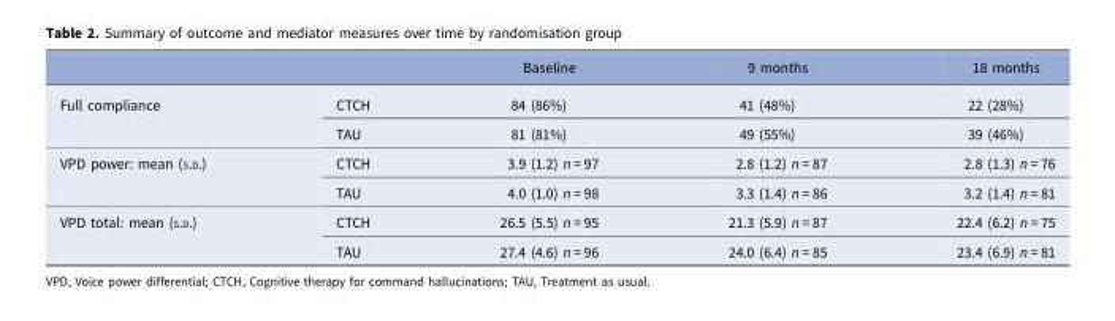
<table><thead><tr><td></td><td></td><td>Baseline</td><td>9 months</td><td>18 months</td></tr></thead><tbody><tr><td rowspan="2">Full compliance</td><td>CTCH</td><td>84 (86%)</td><td>41 (48%)</td><td>22 (28%)</td></tr><tr><td>TAU</td><td>81 (81%)</td><td>49 (55%)</td><td>39 (46%)</td></tr><tr><td rowspan="2">VPD power: mean (S.D.)</td><td>CTCH</td><td>3.9 (1.2) n = 97</td><td>2.8 (1.2) n = 87</td><td>2.8 (1.3) n = 76</td></tr><tr><td>TAU</td><td>4.0 (1.0) n = 98</td><td>3.3 (1.4) n = 86</td><td>3.2 (1.4) n = 81</td></tr><tr><td rowspan="2">VPD total: mean (S.D.)</td><td>CTCH</td><td>26.5 (5.5) n = 95</td><td>21.3 (5.9) n = 87</td><td>22.4 (6.2) n = 75</td></tr><tr><td>TAU</td><td>27.4 (4.6) n = 96</td><td>24.0 (6.4) n = 85</td><td>23.4 (6.9) n = 81</td></tr></tbody></table>